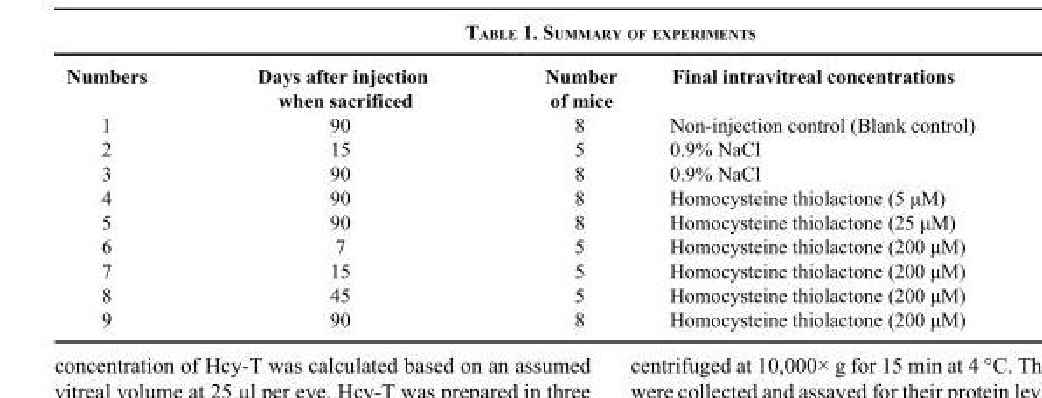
<table><thead><tr><td>Numbers</td><td>Days after injection when sacrificed</td><td>Number of mice</td><td>Final intravitreal concentrations</td></tr></thead><tbody><tr><td>1</td><td>90</td><td>8</td><td>Non-injection control (Blank control)</td></tr><tr><td>2</td><td>15</td><td>5</td><td>0.9% NaCl</td></tr><tr><td>3</td><td>90</td><td>8</td><td>0.9% NaCl</td></tr><tr><td>4</td><td>90</td><td>8</td><td>Homocysteine thiolactone (5 μM)</td></tr><tr><td>5</td><td>90</td><td>8</td><td>Homocysteine thiolactone (25 μM)</td></tr><tr><td>6</td><td>7</td><td>5</td><td>Homocysteine thiolactone (200 μM)</td></tr><tr><td>7</td><td>15</td><td>5</td><td>Homocysteine thiolactone (200 μM)</td></tr><tr><td>8</td><td>45</td><td>5</td><td>Homocysteine thiolactone (200 μM)</td></tr><tr><td>9</td><td>90</td><td>8</td><td>Homocysteine thiolactone (200 μM)</td></tr></tbody></table>